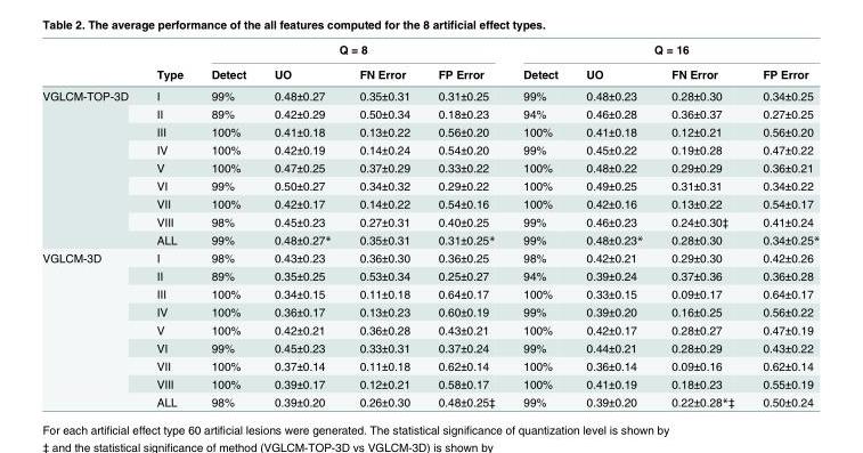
<table><thead><tr><td rowspan="2"></td><td rowspan="2">Type</td><td colspan="4">Q = 8</td><td colspan="4">Q = 16</td></tr><tr><td>Detect</td><td>UO</td><td>FN Error</td><td>FP Error</td><td>Detect</td><td>UO</td><td>FN Error</td><td>FP Error</td></tr></thead><tbody><tr><td rowspan="9">VGLCM-TOP-3D</td><td>I</td><td>99%</td><td>0.48±0.27</td><td>0.35±0.31</td><td>0.31±0.25</td><td>99%</td><td>0.48±0.23</td><td>0.28±0.30</td><td>0.34±0.25</td></tr><tr><td>II</td><td>89%</td><td>0.42±0.29</td><td>0.50±0.34</td><td>0.18±0.23</td><td>94%</td><td>0.46±0.28</td><td>0.36±0.37</td><td>0.27±0.25</td></tr><tr><td>III</td><td>100%</td><td>0.41±0.18</td><td>0.13±0.22</td><td>0.56±0.20</td><td>100%</td><td>0.41±0.18</td><td>0.12±0.21</td><td>0.56±0.20</td></tr><tr><td>IV</td><td>100%</td><td>0.42±0.19</td><td>0.14±0.24</td><td>0.54±0.20</td><td>99%</td><td>0.45±0.22</td><td>0.19±0.28</td><td>0.47±0.22</td></tr><tr><td>V</td><td>100%</td><td>0.47±0.25</td><td>0.37±0.29</td><td>0.33±0.22</td><td>100%</td><td>0.48±0.22</td><td>0.29±0.29</td><td>0.36±0.21</td></tr><tr><td>VI</td><td>99%</td><td>0.50±0.27</td><td>0.34±0.32</td><td>0.29±0.22</td><td>100%</td><td>0.49±0.25</td><td>0.31±0.31</td><td>0.34±0.22</td></tr><tr><td>VII</td><td>100%</td><td>0.42±0.17</td><td>0.14±0.22</td><td>0.54±0.16</td><td>100%</td><td>0.42±0.16</td><td>0.13±0.22</td><td>0.54±0.17</td></tr><tr><td>VIII</td><td>98%</td><td>0.45±0.23</td><td>0.27±0.31</td><td>0.40±0.25</td><td>99%</td><td>0.46±0.23</td><td>0.24±0.30‡</td><td>0.41±0.24</td></tr><tr><td>ALL</td><td>99%</td><td>0.48±0.27*</td><td>0.35±0.31</td><td>0.31±0.25*</td><td>99%</td><td>0.48±0.23*</td><td>0.28±0.30</td><td>0.34±0.25*</td></tr><tr><td rowspan="9">VGLCM-3D</td><td>I</td><td>98%</td><td>0.43±0.23</td><td>0.36±0.30</td><td>0.36±0.25</td><td>98%</td><td>0.42±0.21</td><td>0.29±0.30</td><td>0.42±0.26</td></tr><tr><td>II</td><td>89%</td><td>0.35±0.25</td><td>0.53±0.34</td><td>0.25±0.27</td><td>94%</td><td>0.39±0.24</td><td>0.37±0.36</td><td>0.36±0.28</td></tr><tr><td>III</td><td>100%</td><td>0.34±0.15</td><td>0.11±0.18</td><td>0.64±0.17</td><td>100%</td><td>0.33±0.15</td><td>0.09±0.17</td><td>0.64±0.17</td></tr><tr><td>IV</td><td>100%</td><td>0.36±0.17</td><td>0.13±0.23</td><td>0.60±0.19</td><td>99%</td><td>0.39±0.20</td><td>0.16±0.25</td><td>0.56±0.22</td></tr><tr><td>V</td><td>100%</td><td>0.42±0.21</td><td>0.36±0.28</td><td>0.43±0.21</td><td>100%</td><td>0.42±0.17</td><td>0.28±0.27</td><td>0.47±0.19</td></tr><tr><td>VI</td><td>99%</td><td>0.45±0.23</td><td>0.33±0.31</td><td>0.37±0.24</td><td>99%</td><td>0.44±0.21</td><td>0.28±0.29</td><td>0.43±0.22</td></tr><tr><td>VII</td><td>100%</td><td>0.37±0.14</td><td>0.11±0.18</td><td>0.62±0.14</td><td>100%</td><td>0.36±0.14</td><td>0.09±0.16</td><td>0.62±0.14</td></tr><tr><td>VIII</td><td>100%</td><td>0.39±0.17</td><td>0.12±0.21</td><td>0.58±0.17</td><td>100%</td><td>0.41±0.19</td><td>0.18±0.23</td><td>0.55±0.19</td></tr><tr><td>ALL</td><td>98%</td><td>0.39±0.20</td><td>0.26±0.30</td><td>0.48±0.25‡</td><td>99%</td><td>0.39±0.20</td><td>0.22±0.28*‡</td><td>0.50±0.24</td></tr></tbody></table>